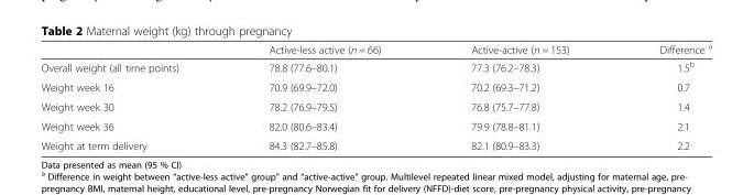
<table><thead><tr><td></td><td>Active-less active (n = 66)</td><td>Active-active (n = 153)</td><td>Difference <sup>a</sup></td></tr></thead><tbody><tr><td>Overall weight (all time points)</td><td>78.8 (77.6–80.1)</td><td>77.3 (76.2–78.3)</td><td>1.5<sup>b</sup></td></tr><tr><td>Weight week 16</td><td>70.9 (69.9–72.0)</td><td>70.2 (69.3–71.2)</td><td>0.7</td></tr><tr><td>Weight week 30</td><td>78.2 (76.9–79.5)</td><td>76.8 (75.7–77.8)</td><td>1.4</td></tr><tr><td>Weight week 36</td><td>82.0 (80.6–83.4)</td><td>79.9 (78.8–81.1)</td><td>2.1</td></tr><tr><td>Weight at term delivery</td><td>84.3 (82.7–85.8)</td><td>82.1 (80.9–83.3)</td><td>2.2</td></tr></tbody></table>